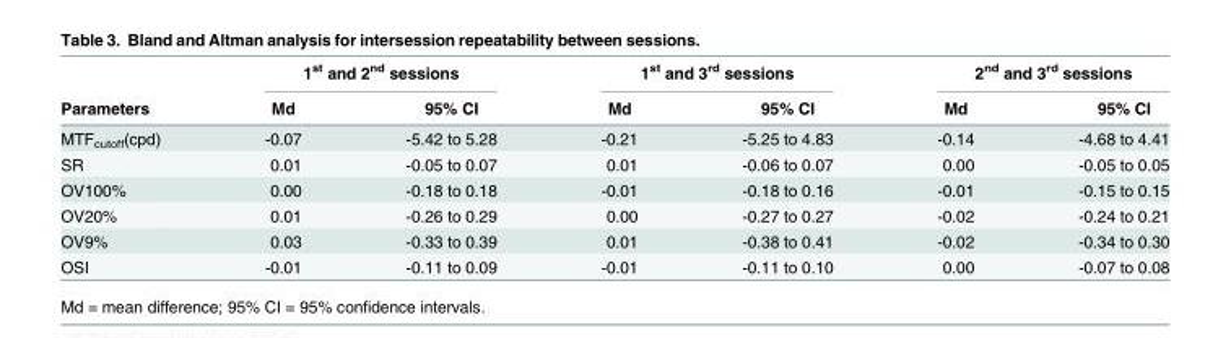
<table><thead><tr><td rowspan="2">Parameters</td><td colspan="2">1<sup>st</sup> and 2<sup>nd</sup> sessions</td><td colspan="2">1<sup>st</sup> and 3<sup>rd</sup> sessions</td><td colspan="2">2<sup>nd</sup> and 3<sup>rd</sup> sessions</td></tr><tr><td>Md</td><td>95% CI</td><td>Md</td><td>95% CI</td><td>Md</td><td>95% CI</td></tr></thead><tbody><tr><td>MTF<sub>cutoff</sub>(cpd)</td><td>-0.07</td><td>-5.42 to 5.28</td><td>-0.21</td><td>-5.25 to 4.83</td><td>-0.14</td><td>-4.68 to 4.41</td></tr><tr><td>SR</td><td>0.01</td><td>-0.05 to 0.07</td><td>0.01</td><td>-0.06 to 0.07</td><td>0.00</td><td>-0.05 to 0.05</td></tr><tr><td>OV100%</td><td>0.00</td><td>-0.18 to 0.18</td><td>-0.01</td><td>-0.18 to 0.16</td><td>-0.01</td><td>-0.15 to 0.15</td></tr><tr><td>OV20%</td><td>0.01</td><td>-0.26 to 0.29</td><td>0.00</td><td>-0.27 to 0.27</td><td>-0.02</td><td>-0.24 to 0.21</td></tr><tr><td>OV9%</td><td>0.03</td><td>-0.33 to 0.39</td><td>0.01</td><td>-0.38 to 0.41</td><td>-0.02</td><td>-0.34 to 0.30</td></tr><tr><td>OSI</td><td>-0.01</td><td>-0.11 to 0.09</td><td>-0.01</td><td>-0.11 to 0.10</td><td>0.00</td><td>-0.07 to 0.08</td></tr></tbody></table>